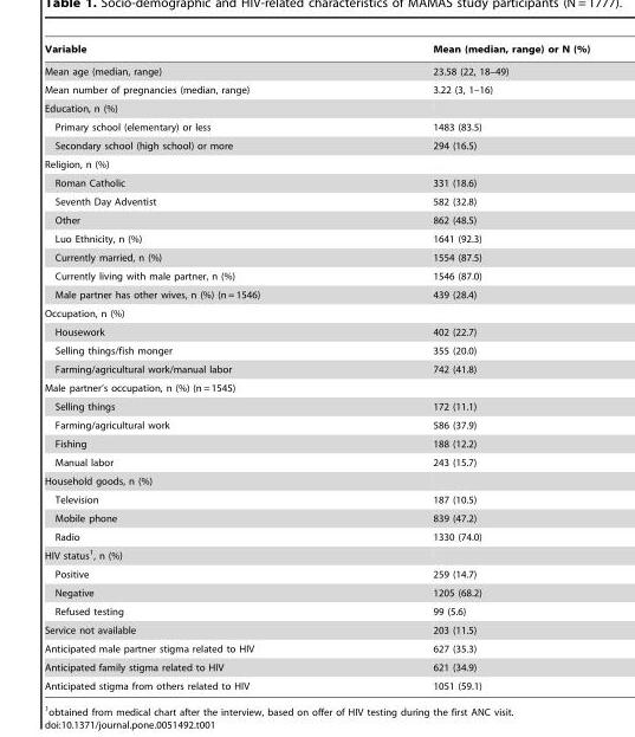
<table><thead><tr><td>Variable</td><td>Mean (median, range) or N (%)</td></tr></thead><tbody><tr><td>Mean age (median, range)</td><td>23.58 (22, 18–49)</td></tr><tr><td>Mean number of pregnancies (median, range)</td><td>3.22 (3, 1–16)</td></tr><tr><td colspan="2">Education, n (%)</td></tr><tr><td>Primary school (elementary) or less</td><td>1483 (83.5)</td></tr><tr><td>Secondary school (high school) or more</td><td>294 (16.5)</td></tr><tr><td colspan="2">Religion, n (%)</td></tr><tr><td>Roman Catholic</td><td>331 (18.6)</td></tr><tr><td>Seventh Day Adventist</td><td>582 (32.8)</td></tr><tr><td>Other</td><td>862 (48.5)</td></tr><tr><td>Luo Ethnicity, n (%)</td><td>1641 (92.3)</td></tr><tr><td>Currently married, n (%)</td><td>1554 (87.5)</td></tr><tr><td>Currently living with male partner, n (%)</td><td>1546 (87.0)</td></tr><tr><td>Male partner has other wives, n (%) (n = 1546)</td><td>439 (28.4)</td></tr><tr><td colspan="2">Occupation, n (%)</td></tr><tr><td>Housework</td><td>402 (22.7)</td></tr><tr><td>Selling things/fish monger</td><td>355 (20.0)</td></tr><tr><td>Farming/agricultural work/manual labor</td><td>742 (41.8)</td></tr><tr><td colspan="2">Male partner’s occupation, n (%) (n = 1545)</td></tr><tr><td>Selling things</td><td>172 (11.1)</td></tr><tr><td>Farming/agricultural work</td><td>586 (37.9)</td></tr><tr><td>Fishing</td><td>188 (12.2)</td></tr><tr><td>Manual labor</td><td>243 (15.7)</td></tr><tr><td colspan="2">Household goods, n (%)</td></tr><tr><td>Television</td><td>187 (10.5)</td></tr><tr><td>Mobile phone</td><td>839 (47.2)</td></tr><tr><td>Radio</td><td>1330 (74.0)</td></tr><tr><td colspan="2">HIV status<sup>1</sup>, n (%)</td></tr><tr><td>Positive</td><td>259 (14.7)</td></tr><tr><td>Negative</td><td>1205 (68.2)</td></tr><tr><td>Refused testing</td><td>99 (5.6)</td></tr><tr><td>Service not available</td><td>203 (11.5)</td></tr><tr><td>Anticipated male partner stigma related to HIV</td><td>627 (35.3)</td></tr><tr><td>Anticipated family stigma related to HIV</td><td>621 (34.9)</td></tr><tr><td>Anticipated stigma from others related to HIV</td><td>1051 (59.1)</td></tr></tbody></table>